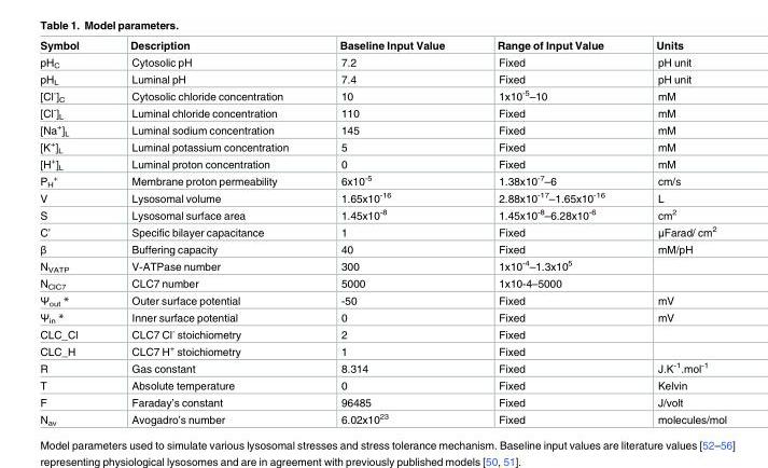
<table><thead><tr><td>Symbol</td><td>Description</td><td>Baseline Input Value</td><td>Range of Input Value</td><td>Units</td></tr></thead><tbody><tr><td>pH<sub>C</sub></td><td>Cytosolic pH</td><td>7.2</td><td>Fixed</td><td>pH unit</td></tr><tr><td>pH<sub>L</sub></td><td>Luminal pH</td><td>7.4</td><td>Fixed</td><td>pH unit</td></tr><tr><td>[Cl<sup>-</sup>]<sub>C</sub></td><td>Cytosolic chloride concentration</td><td>10</td><td>1x10<sup>-5</sup>–10</td><td>mM</td></tr><tr><td>[Cl<sup>-</sup>]<sub>L</sub></td><td>Luminal chloride concentration</td><td>110</td><td>Fixed</td><td>mM</td></tr><tr><td>[Na<sup>+</sup>]<sub>L</sub></td><td>Luminal sodium concentration</td><td>145</td><td>Fixed</td><td>mM</td></tr><tr><td>[K<sup>+</sup>]<sub>L</sub></td><td>Luminal potassium concentration</td><td>5</td><td>Fixed</td><td>mM</td></tr><tr><td>[H<sup>+</sup>]<sub>L</sub></td><td>Luminal proton concentration</td><td>0</td><td>Fixed</td><td>mM</td></tr><tr><td>P<sub>H</sub> <sup>+</sup></td><td>Membrane proton permeability</td><td>6x10<sup>-5</sup></td><td>1.38x10<sup>-7</sup>–6</td><td>cm/s</td></tr><tr><td>V</td><td>Lysosomal volume</td><td>1.65x10<sup>-16</sup></td><td>2.88x10<sup>-17</sup>–1.65x10<sup>-16</sup></td><td>L</td></tr><tr><td>S</td><td>Lysosomal surface area</td><td>1.45x10<sup>-8</sup></td><td>1.45x10<sup>-8</sup>–6.28x10<sup>-6</sup></td><td>cm<sup>2</sup></td></tr><tr><td>C’</td><td>Specific bilayer capacitance</td><td>1</td><td>Fixed</td><td>μFarad/ cm<sup>2</sup></td></tr><tr><td>β</td><td>Buffering capacity</td><td>40</td><td>Fixed</td><td>mM/pH</td></tr><tr><td>N<sub>VATP</sub></td><td>V-ATPase number</td><td>300</td><td>1x10<sup>-4</sup>–1.3x10<sup>5</sup></td><td></td></tr><tr><td>N<sub>ClC7</sub></td><td>CLC7 number</td><td>5000</td><td>1x10-4–5000</td><td></td></tr><tr><td>Ψ<sub>out</sub> *</td><td>Outer surface potential</td><td>-50</td><td>Fixed</td><td>mV</td></tr><tr><td>Ψ<sub>in</sub> *</td><td>Inner surface potential</td><td>0</td><td>Fixed</td><td>mV</td></tr><tr><td>CLC_Cl</td><td>CLC7 Cl<sup>-</sup> stoichiometry</td><td>2</td><td>Fixed</td><td></td></tr><tr><td>CLC_H</td><td>CLC7 H<sup>+</sup> stoichiometry</td><td>1</td><td>Fixed</td><td></td></tr><tr><td>R</td><td>Gas constant</td><td>8.314</td><td>Fixed</td><td>J.K<sup>-1</sup>.mol<sup>-1</sup></td></tr><tr><td>T</td><td>Absolute temperature</td><td>0</td><td>Fixed</td><td>Kelvin</td></tr><tr><td>F</td><td>Faraday’s constant</td><td>96485</td><td>Fixed</td><td>J/volt</td></tr><tr><td>N<sub>av</sub></td><td>Avogadro’s number</td><td>6.02x10<sup>23</sup></td><td>Fixed</td><td>molecules/mol</td></tr></tbody></table>